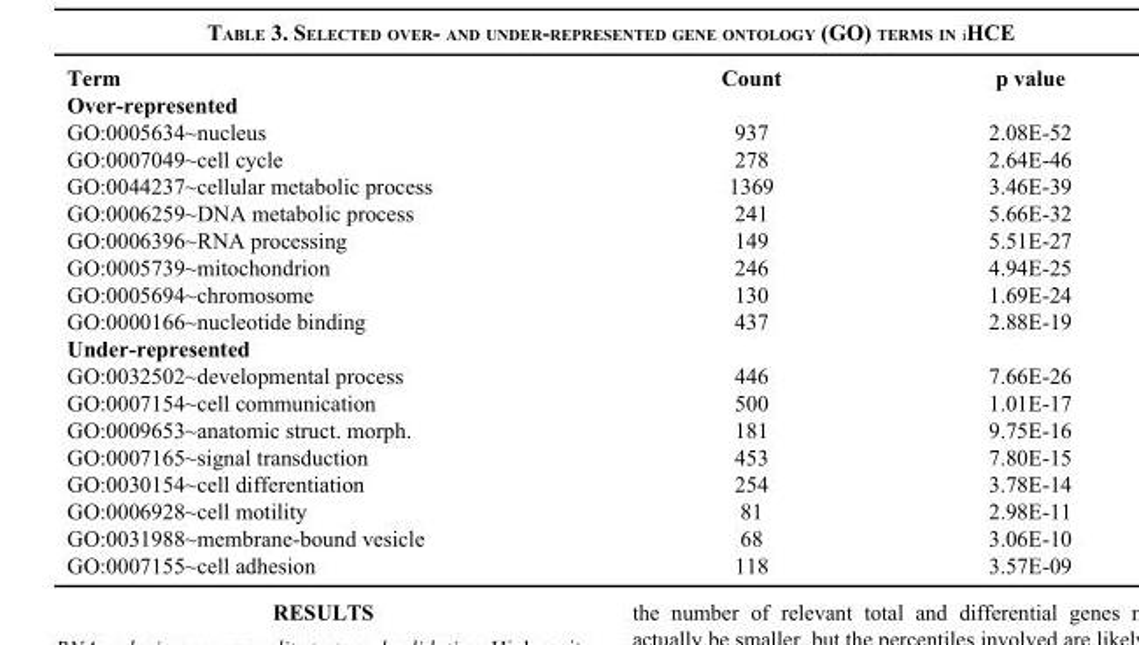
<table><thead><tr><td>Term</td><td>Count</td><td>p value</td></tr></thead><tbody><tr><td colspan="3">Over-represented</td></tr><tr><td>GO:0005634~nucleus</td><td>937</td><td>2.08E-52</td></tr><tr><td>GO:0007049~cell cycle</td><td>278</td><td>2.64E-46</td></tr><tr><td>GO:0044237~cellular metabolic process</td><td>1369</td><td>3.46E-39</td></tr><tr><td>GO:0006259~DNA metabolic process</td><td>241</td><td>5.66E-32</td></tr><tr><td>GO:0006396~RNA processing</td><td>149</td><td>5.51E-27</td></tr><tr><td>GO:0005739~mitochondrion</td><td>246</td><td>4.94E-25</td></tr><tr><td>GO:0005694~chromosome</td><td>130</td><td>1.69E-24</td></tr><tr><td>GO:0000166~nucleotide binding</td><td>437</td><td>2.88E-19</td></tr><tr><td colspan="3">Under-represented</td></tr><tr><td>GO:0032502~developmental process</td><td>446</td><td>7.66E-26</td></tr><tr><td>GO:0007154~cell communication</td><td>500</td><td>1.01E-17</td></tr><tr><td>GO:0009653~anatomic struct. morph.</td><td>181</td><td>9.75E-16</td></tr><tr><td>GO:0007165~signal transduction</td><td>453</td><td>7.80E-15</td></tr><tr><td>GO:0030154~cell differentiation</td><td>254</td><td>3.78E-14</td></tr><tr><td>GO:0006928~cell motility</td><td>81</td><td>2.98E-11</td></tr><tr><td>GO:0031988~membrane-bound vesicle</td><td>68</td><td>3.06E-10</td></tr><tr><td>GO:0007155~cell adhesion</td><td>118</td><td>3.57E-09</td></tr></tbody></table>